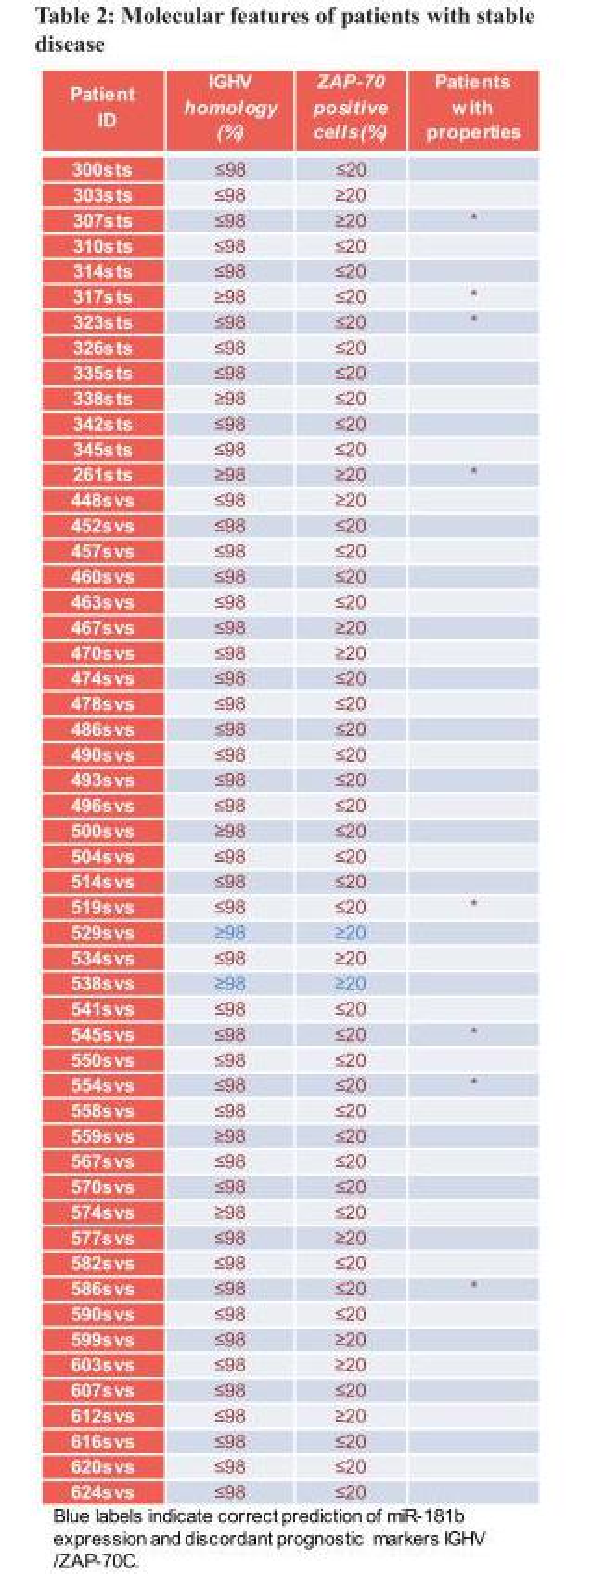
<table><thead><tr><td>Patient ID</td><td>IGHV homology (%)</td><td>ZAP-70 positive cells (%)</td><td>Patients with properties</td></tr></thead><tbody><tr><td>300sts</td><td>≤98</td><td>≤20</td><td></td></tr><tr><td>303sts</td><td>≤98</td><td>≥20</td><td></td></tr><tr><td>307sts</td><td>≤98</td><td>≥20</td><td>*</td></tr><tr><td>310sts</td><td>≤98</td><td>≤20</td><td></td></tr><tr><td>314sts</td><td>≤98</td><td>≤20</td><td></td></tr><tr><td>317sts</td><td>≥98</td><td>≤20</td><td>*</td></tr><tr><td>323sts</td><td>≤98</td><td>≤20</td><td>*</td></tr><tr><td>326sts</td><td>≤98</td><td>≤20</td><td></td></tr><tr><td>335sts</td><td>≤98</td><td>≤20</td><td></td></tr><tr><td>338sts</td><td>≥98</td><td>≤20</td><td></td></tr><tr><td>342sts</td><td>≤98</td><td>≤20</td><td></td></tr><tr><td>345sts</td><td>≤98</td><td>≤20</td><td></td></tr><tr><td>261sts</td><td>≥98</td><td>≥20</td><td>*</td></tr><tr><td>448svs</td><td>≤98</td><td>≥20</td><td></td></tr><tr><td>452svs</td><td>≤98</td><td>≤20</td><td></td></tr><tr><td>457svs</td><td>≤98</td><td>≤20</td><td></td></tr><tr><td>460svs</td><td>≤98</td><td>≤20</td><td></td></tr><tr><td>463svs</td><td>≤98</td><td>≤20</td><td></td></tr><tr><td>467svs</td><td>≤98</td><td>≥20</td><td></td></tr><tr><td>470svs</td><td>≤98</td><td>≥20</td><td></td></tr><tr><td>474svs</td><td>≤98</td><td>≤20</td><td></td></tr><tr><td>478svs</td><td>≤98</td><td>≤20</td><td></td></tr><tr><td>486svs</td><td>≤98</td><td>≤20</td><td></td></tr><tr><td>490svs</td><td>≤98</td><td>≤20</td><td></td></tr><tr><td>493svs</td><td>≤98</td><td>≤20</td><td></td></tr><tr><td>496svs</td><td>≤98</td><td>≤20</td><td></td></tr><tr><td>500svs</td><td>≥98</td><td>≤20</td><td></td></tr><tr><td>504svs</td><td>≤98</td><td>≤20</td><td></td></tr><tr><td>514svs</td><td>≤98</td><td>≤20</td><td></td></tr><tr><td>519svs</td><td>≤98</td><td>≤20</td><td>*</td></tr><tr><td>529svs</td><td>≥98</td><td>≥20</td><td></td></tr><tr><td>534svs</td><td>≤98</td><td>≥20</td><td></td></tr><tr><td>538svs</td><td>≥98</td><td>≥20</td><td></td></tr><tr><td>541svs</td><td>≤98</td><td>≤20</td><td></td></tr><tr><td>545svs</td><td>≤98</td><td>≤20</td><td>*</td></tr><tr><td>550svs</td><td>≤98</td><td>≤20</td><td></td></tr><tr><td>554svs</td><td>≤98</td><td>≤20</td><td>*</td></tr><tr><td>558svs</td><td>≤98</td><td>≤20</td><td></td></tr><tr><td>559svs</td><td>≥98</td><td>≤20</td><td></td></tr><tr><td>567svs</td><td>≤98</td><td>≤20</td><td></td></tr><tr><td>570svs</td><td>≤98</td><td>≤20</td><td></td></tr><tr><td>574svs</td><td>≥98</td><td>≤20</td><td></td></tr><tr><td>577svs</td><td>≤98</td><td>≥20</td><td></td></tr><tr><td>582svs</td><td>≤98</td><td>≤20</td><td></td></tr><tr><td>586svs</td><td>≤98</td><td>≤20</td><td>*</td></tr><tr><td>590svs</td><td>≤98</td><td>≤20</td><td></td></tr><tr><td>599svs</td><td>≤98</td><td>≥20</td><td></td></tr><tr><td>603svs</td><td>≤98</td><td>≥20</td><td></td></tr><tr><td>607svs</td><td>≤98</td><td>≤20</td><td></td></tr><tr><td>612svs</td><td>≤98</td><td>≥20</td><td></td></tr><tr><td>616svs</td><td>≤98</td><td>≤20</td><td></td></tr><tr><td>620svs</td><td>≤98</td><td>≤20</td><td></td></tr><tr><td>624svs</td><td>≤98</td><td>≤20</td><td></td></tr></tbody></table>